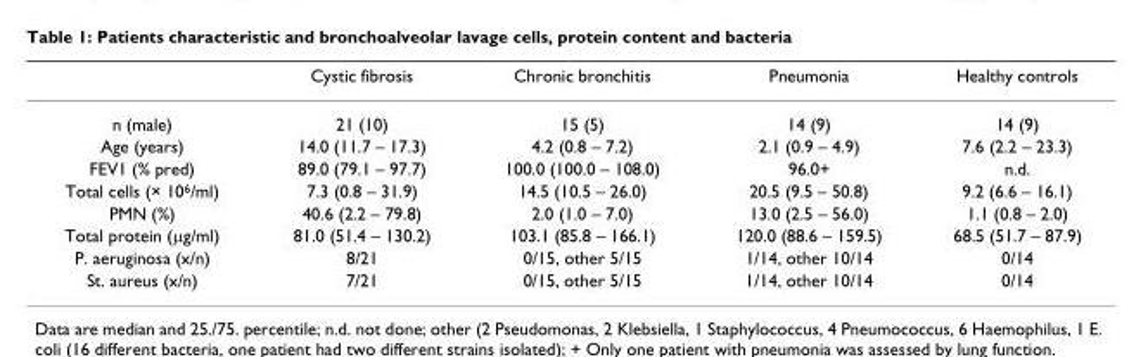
<table><thead><tr><td></td><td>Cystic fibrosis</td><td>Chronic bronchitis</td><td>Pneumonia</td><td>Healthy controls</td></tr></thead><tbody><tr><td>n (male)</td><td>21 (10)</td><td>15 (5)</td><td>14 (9)</td><td>14 (9)</td></tr><tr><td>Age (years)</td><td>14.0 (11.7 – 17.3)</td><td>4.2 (0.8 – 7.2)</td><td>2.1 (0.9 – 4.9)</td><td>7.6 (2.2 – 23.3)</td></tr><tr><td>FEV1 (% pred)</td><td>89.0 (79.1 – 97.7)</td><td>100.0 (100.0 – 108.0)</td><td>96.0+</td><td>n.d.</td></tr><tr><td>Total cells (× 10<sup>6</sup>/ml)</td><td>7.3 (0.8 – 31.9)</td><td>14.5 (10.5 – 26.0)</td><td>20.5 (9.5 – 50.8)</td><td>9.2 (6.6 – 16.1)</td></tr><tr><td>PMN (%)</td><td>40.6 (2.2 – 79.8)</td><td>2.0 (1.0 – 7.0)</td><td>13.0 (2.5 – 56.0)</td><td>1.1 (0.8 – 2.0)</td></tr><tr><td>Total protein (µg/ml)</td><td>81.0 (51.4 – 130.2)</td><td>103.1 (85.8 – 166.1)</td><td>120.0 (88.6 – 159.5)</td><td>68.5 (51.7 – 87.9)</td></tr><tr><td>P. aeruginosa (x/n)</td><td>8/21</td><td>0/15, other 5/15</td><td>1/14, other 10/14</td><td>0/14</td></tr><tr><td>St. aureus (x/n)</td><td>7/21</td><td>0/15, other 5/15</td><td>1/14, other 10/14</td><td>0/14</td></tr></tbody></table>